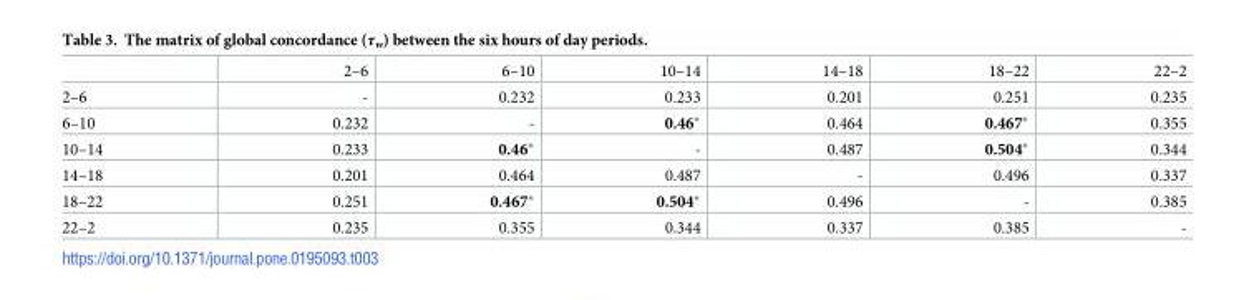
<table><thead><tr><td></td><td>2–6</td><td>6–10</td><td>10–14</td><td>14–18</td><td>18–22</td><td>22–2</td></tr></thead><tbody><tr><td>2–6</td><td>-</td><td>0.232</td><td>0.233</td><td>0.201</td><td>0.251</td><td>0.235</td></tr><tr><td>6–10</td><td>0.232</td><td>-</td><td>0.46*</td><td>0.464</td><td>0.467*</td><td>0.355</td></tr><tr><td>10–14</td><td>0.233</td><td>0.46*</td><td>-</td><td>0.487</td><td>0.504*</td><td>0.344</td></tr><tr><td>14–18</td><td>0.201</td><td>0.464</td><td>0.487</td><td>-</td><td>0.496</td><td>0.337</td></tr><tr><td>18–22</td><td>0.251</td><td>0.467*</td><td>0.504*</td><td>0.496</td><td>-</td><td>0.385</td></tr><tr><td>22–2</td><td>0.235</td><td>0.355</td><td>0.344</td><td>0.337</td><td>0.385</td><td>-</td></tr></tbody></table>